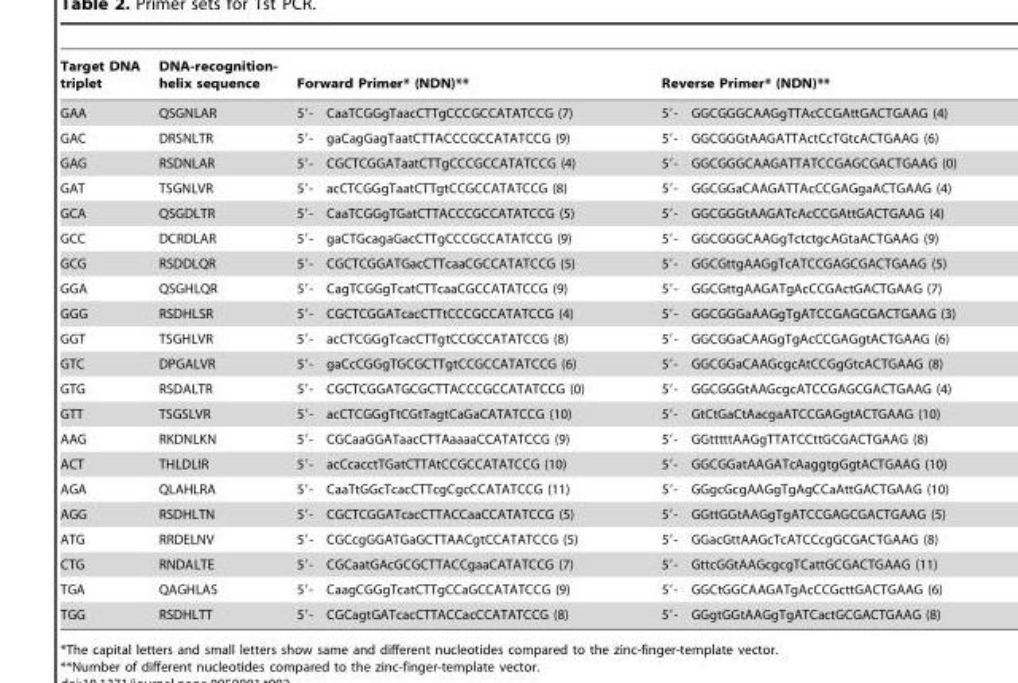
<table><thead><tr><td rowspan="2">Target DNA triplet GAA</td><td rowspan="2">DNA-recognition- helix sequence QSGNLAR</td><td colspan="2">Forward Primer* (NDN)**</td><td colspan="2">Reverse Primer* (NDN)**</td></tr><tr><td>5′-</td><td>CaaTCGGgTaacCTTgCCCGCCATATCCG (7)</td><td>5′-</td><td>GGCGGGCAAGgTTAcCCGAttGACTGAAG (4)</td></tr></thead><tbody><tr><td>GAC</td><td>DRSNLTR</td><td>5′-</td><td>gaCagGagTaatCTTACCCGCCATATCCG (9)</td><td>5′-</td><td>GGCGGGtAAGATTActCcTGtcACTGAAG (6)</td></tr><tr><td>GAG</td><td>RSDNLAR</td><td>5′-</td><td>CGCTCGGATaatCTTgCCCGCCATATCCG (4)</td><td>5′-</td><td>GGCGGGCAAGATTATCCGAGCGACTGAAG (0)</td></tr><tr><td>GAT</td><td>TSGNLVR</td><td>5′-</td><td>acCTCGGgTaatCTTgtCCGCCATATCCG (8)</td><td>5′-</td><td>GGCGGaCAAGATTAcCCGAGgaACTGAAG (4)</td></tr><tr><td>GCA</td><td>QSGDLTR</td><td>5′-</td><td>CaaTCGGgTGatCTTACCCGCCATATCCG (5)</td><td>5′-</td><td>GGCGGGtAAGATcAcCCGAttGACTGAAG (4)</td></tr><tr><td>GCC</td><td>DCRDLAR</td><td>5′-</td><td>gaCTGcagaGacCTTgCCCGCCATATCCG (9)</td><td>5′-</td><td>GGCGGGCAAGgTctctgcAGtaACTGAAG (9)</td></tr><tr><td>GCG</td><td>RSDDLQR</td><td>5′-</td><td>CGCTCGGATGacCTTcaaCGCCATATCCG (5)</td><td>5′-</td><td>GGCGttgAAGgTcATCCGAGCGACTGAAG (5)</td></tr><tr><td>GGA</td><td>QSGHLQR</td><td>5′-</td><td>CagTCGGgTcatCTTcaaCGCCATATCCG (9)</td><td>5′-</td><td>GGCGttgAAGATgAcCCGActGACTGAAG (7)</td></tr><tr><td>GGG</td><td>RSDHLSR</td><td>5′-</td><td>CGCTCGGATcacCTTtCCCGCCATATCCG (4)</td><td>5′-</td><td>GGCGGGaAAGgTgATCCGAGCGACTGAAG (3)</td></tr><tr><td>GGT</td><td>TSGHLVR</td><td>5′-</td><td>acCTCGGgTcacCTTgtCCGCCATATCCG (8)</td><td>5′-</td><td>GGCGGaCAAGgTgAcCCGAGgtACTGAAG (6)</td></tr><tr><td>GTC</td><td>DPGALVR</td><td>5′-</td><td>gaCcCGGgTGCGCTTgtCCGCCATATCCG (6)</td><td>5′-</td><td>GGCGGaCAAGcgcAtCCGgGtcACTGAAG (8)</td></tr><tr><td>GTG</td><td>RSDALTR</td><td>5′-</td><td>CGCTCGGATGCGCTTACCCGCCATATCCG (0)</td><td>5′-</td><td>GGCGGGtAAGcgcATCCGAGCGACTGAAG (4)</td></tr><tr><td>GTT</td><td>TSGSLVR</td><td>5′-</td><td>acCTCGGgTtCGtTagtCaGaCATATCCG (10)</td><td>5′-</td><td>GtCtGaCtAacgaATCCGAGgtACTGAAG (10)</td></tr><tr><td>AAG</td><td>RKDNLKN</td><td>5′-</td><td>CGCaaGGATaacCTTAaaaaCCATATCCG (9)</td><td>5′-</td><td>GGtttttAAGgTTATCCttGCGACTGAAG (8)</td></tr><tr><td>ACT</td><td>THLDLIR</td><td>5′-</td><td>acCcacctTGatCTTAtCCGCCATATCCG (10)</td><td>5′-</td><td>GGCGGatAAGATcAaggtgGgtACTGAAG (10)</td></tr><tr><td>AGA</td><td>QLAHLRA</td><td>5′-</td><td>CaaTtGGcTcacCTTcgCgcCCATATCCG (11)</td><td>5′-</td><td>GGgcGcgAAGgTgAgCCaAttGACTGAAG (10)</td></tr><tr><td>AGG</td><td>RSDHLTN</td><td>5′-</td><td>CGCTCGGATcacCTTACCaaCCATATCCG (5)</td><td>5′-</td><td>GGttGGtAAGgTgATCCGAGCGACTGAAG (5)</td></tr><tr><td>ATG</td><td>RRDELNV</td><td>5′-</td><td>CGCcgGGATGaGCTTAACgtCCATATCCG (5)</td><td>5′-</td><td>GGacGttAAGcTcATCCcgGCGACTGAAG (8)</td></tr><tr><td>CTG</td><td>RNDALTE</td><td>5′-</td><td>CGCaatGAcGCGCTTACCgaaCATATCCG (7)</td><td>5′-</td><td>GttcGGtAAGcgcgTCattGCGACTGAAG (11)</td></tr><tr><td>TGA</td><td>QAGHLAS</td><td>5′-</td><td>CaagCGGgTcatCTTgCCaGCCATATCCG (9)</td><td>5′-</td><td>GGCtGGCAAGATgAcCCGcttGACTGAAG (6)</td></tr><tr><td>TGG</td><td>RSDHLTT</td><td>5′-</td><td>CGCagtGATcacCTTACCacCCATATCCG (8)</td><td>5′-</td><td>GGgtGGtAAGgTgATCactGCGACTGAAG (8)</td></tr></tbody></table>